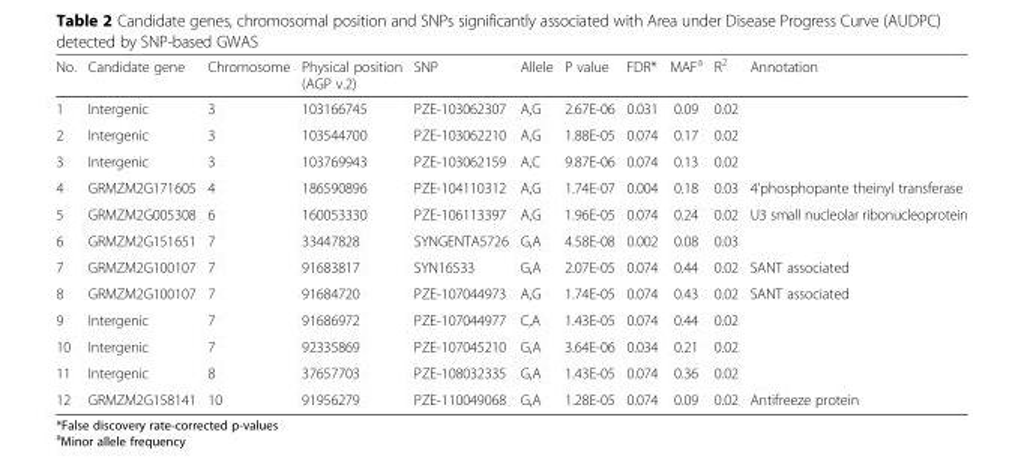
<table><thead><tr><td>No.</td><td>Candidate gene</td><td>Chromosome</td><td>Physical position (AGP v.2)</td><td>SNP</td><td>Allele</td><td>P value</td><td>FDR*</td><td>MAF<sup>a</sup></td><td>R<sup>2</sup></td><td>Annotation</td></tr></thead><tbody><tr><td>1</td><td>Intergenic</td><td>3</td><td>103166745</td><td>PZE-103062307</td><td>A,G</td><td>2.67E-06</td><td>0.031</td><td>0.09</td><td>0.02</td><td></td></tr><tr><td>2</td><td>Intergenic</td><td>3</td><td>103544700</td><td>PZE-103062210</td><td>A,G</td><td>1.88E-05</td><td>0.074</td><td>0.17</td><td>0.02</td><td></td></tr><tr><td>3</td><td>Intergenic</td><td>3</td><td>103769943</td><td>PZE-103062159</td><td>A,C</td><td>9.87E-06</td><td>0.074</td><td>0.13</td><td>0.02</td><td></td></tr><tr><td>4</td><td>GRMZM2G171605</td><td>4</td><td>186590896</td><td>PZE-104110312</td><td>A,G</td><td>1.74E-07</td><td>0.004</td><td>0.18</td><td>0.03</td><td>4&#x27;phosphopante theinyl transferase</td></tr><tr><td>5</td><td>GRMZM2G005308</td><td>6</td><td>160053330</td><td>PZE-106113397</td><td>A,G</td><td>1.96E-05</td><td>0.074</td><td>0.24</td><td>0.02</td><td>U3 small nucleolar ribonucleoprotein</td></tr><tr><td>6</td><td>GRMZM2G151651</td><td>7</td><td>33447828</td><td>SYNGENTA5726</td><td>G,A</td><td>4.58E-08</td><td>0.002</td><td>0.08</td><td>0.03</td><td></td></tr><tr><td>7</td><td>GRMZM2G100107</td><td>7</td><td>91683817</td><td>SYN16533</td><td>G,A</td><td>2.07E-05</td><td>0.074</td><td>0.44</td><td>0.02</td><td>SANT associated</td></tr><tr><td>8</td><td>GRMZM2G100107</td><td>7</td><td>91684720</td><td>PZE-107044973</td><td>A,G</td><td>1.74E-05</td><td>0.074</td><td>0.43</td><td>0.02</td><td>SANT associated</td></tr><tr><td>9</td><td>Intergenic</td><td>7</td><td>91686972</td><td>PZE-107044977</td><td>C,A</td><td>1.43E-05</td><td>0.074</td><td>0.44</td><td>0.02</td><td></td></tr><tr><td>10</td><td>Intergenic</td><td>7</td><td>92335869</td><td>PZE-107045210</td><td>G,A</td><td>3.64E-06</td><td>0.034</td><td>0.21</td><td>0.02</td><td></td></tr><tr><td>11</td><td>Intergenic</td><td>8</td><td>37657703</td><td>PZE-108032335</td><td>G,A</td><td>1.43E-05</td><td>0.074</td><td>0.36</td><td>0.02</td><td></td></tr><tr><td>12</td><td>GRMZM2G158141</td><td>10</td><td>91956279</td><td>PZE-110049068</td><td>G,A</td><td>1.28E-05</td><td>0.074</td><td>0.09</td><td>0.02</td><td>Antifreeze protein</td></tr></tbody></table>